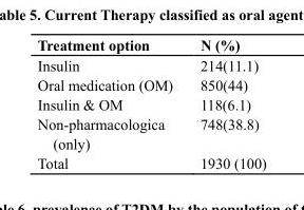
<table><thead><tr><td>Treatment option</td><td>N (%)</td></tr></thead><tbody><tr><td>Insulin</td><td>214(11.1)</td></tr><tr><td>Oral medication (OM)</td><td>850(44)</td></tr><tr><td>Insulin &amp; OM</td><td>118(6.1)</td></tr><tr><td>Non-pharmacologica (only)</td><td>748(38.8)</td></tr><tr><td>Total</td><td>1930 (100)</td></tr></tbody></table>